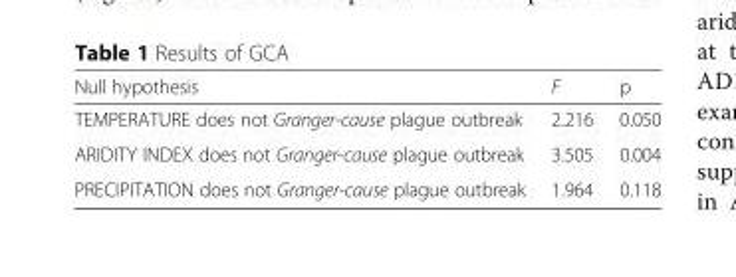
<table><thead><tr><td>Null hypothesis</td><td>F</td><td>p</td></tr></thead><tbody><tr><td>TEMPERATURE does not Granger-cause plague outbreak</td><td>2.216</td><td>0.050</td></tr><tr><td>ARIDITY INDEX does not Granger-cause plague outbreak</td><td>3.505</td><td>0.004</td></tr><tr><td>PRECIPITATION does not Granger-cause plague outbreak</td><td>1.964</td><td>0.118</td></tr></tbody></table>